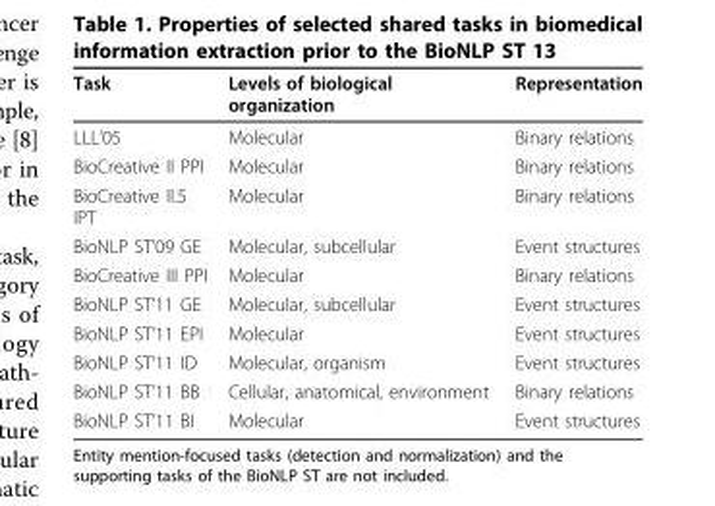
<table><thead><tr><td>Task</td><td>Levels of biological organization</td><td>Representation</td></tr></thead><tbody><tr><td>LLL’05</td><td>Molecular</td><td>Binary relations</td></tr><tr><td>BioCreative II PPI</td><td>Molecular</td><td>Binary relations</td></tr><tr><td>BioCreative II.5 IPT</td><td>Molecular</td><td>Binary relations</td></tr><tr><td>BioNLP ST’09 GE</td><td>Molecular, subcellular</td><td>Event structures</td></tr><tr><td>BioCreative III PPI</td><td>Molecular</td><td>Binary relations</td></tr><tr><td>BioNLP ST’11 GE</td><td>Molecular, subcellular</td><td>Event structures</td></tr><tr><td>BioNLP ST’11 EPI</td><td>Molecular</td><td>Event structures</td></tr><tr><td>BioNLP ST’11 ID</td><td>Molecular, organism</td><td>Event structures</td></tr><tr><td>BioNLP ST’11 BB</td><td>Cellular, anatomical, environment</td><td>Binary relations</td></tr><tr><td>BioNLP ST’11 BI</td><td>Molecular</td><td>Event structures</td></tr></tbody></table>